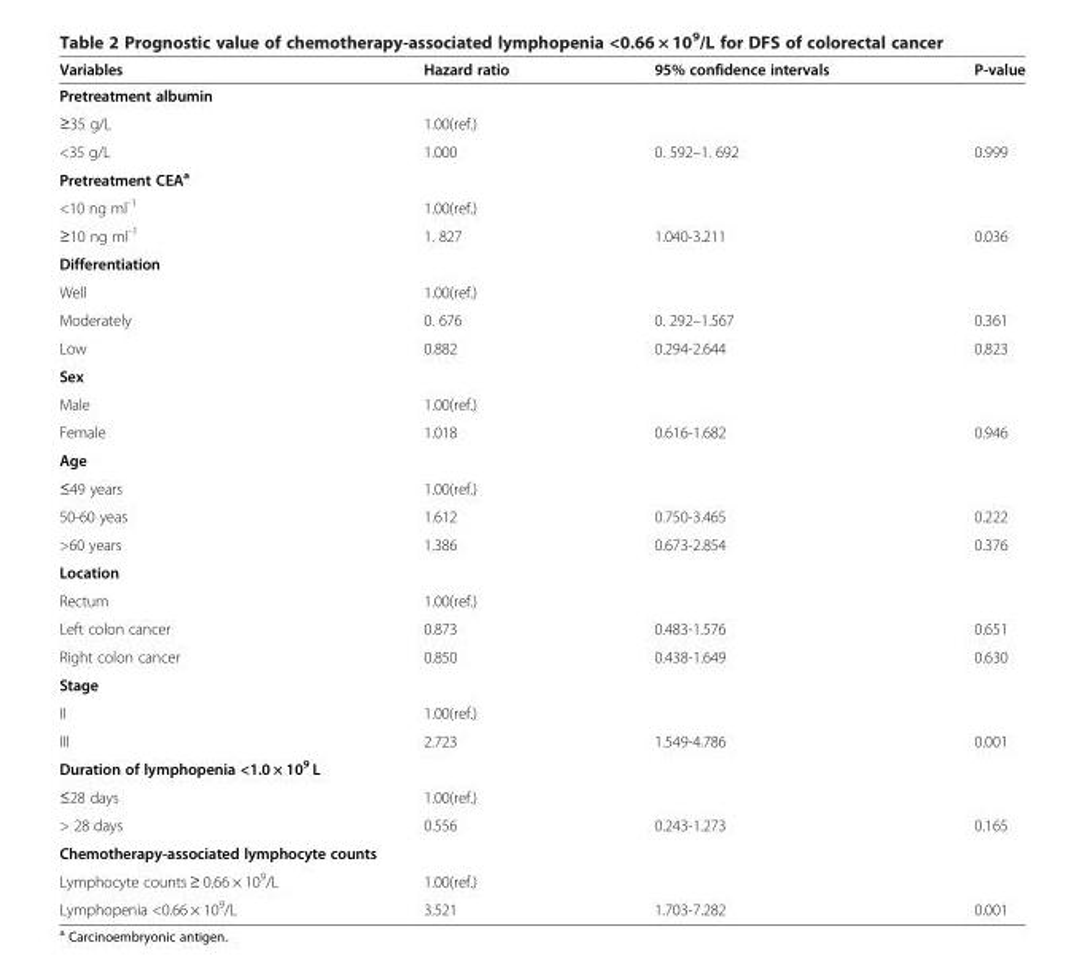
<table><thead><tr><td>Variables</td><td>Hazard ratio</td><td>95% confidence intervals</td><td>P-value</td></tr></thead><tbody><tr><td colspan="4">Pretreatment albumin</td></tr><tr><td>≥35 g/L</td><td>1.00(ref.)</td><td></td><td></td></tr><tr><td>&lt;35 g/L</td><td>1.000</td><td>0. 592–1. 692</td><td>0.999</td></tr><tr><td colspan="4">Pretreatment CEA<sup>a</sup></td></tr><tr><td>&lt;10 ng ml<sup>-1</sup></td><td>1.00(ref.)</td><td></td><td></td></tr><tr><td>≥10 ng ml<sup>-1</sup></td><td>1. 827</td><td>1.040-3.211</td><td>0.036</td></tr><tr><td colspan="4">Differentiation</td></tr><tr><td>Well</td><td>1.00(ref.)</td><td></td><td></td></tr><tr><td>Moderately</td><td>0. 676</td><td>0. 292–1.567</td><td>0.361</td></tr><tr><td>Low</td><td>0.882</td><td>0.294-2.644</td><td>0.823</td></tr><tr><td colspan="4">Sex</td></tr><tr><td>Male</td><td>1.00(ref.)</td><td></td><td></td></tr><tr><td>Female</td><td>1.018</td><td>0.616-1.682</td><td>0.946</td></tr><tr><td colspan="4">Age</td></tr><tr><td>≤49 years</td><td>1.00(ref.)</td><td></td><td></td></tr><tr><td>50-60 yeas</td><td>1.612</td><td>0.750-3.465</td><td>0.222</td></tr><tr><td>&gt;60 years</td><td>1.386</td><td>0.673-2.854</td><td>0.376</td></tr><tr><td colspan="4">Location</td></tr><tr><td>Rectum</td><td>1.00(ref.)</td><td></td><td></td></tr><tr><td>Left colon cancer</td><td>0.873</td><td>0.483-1.576</td><td>0.651</td></tr><tr><td>Right colon cancer</td><td>0.850</td><td>0.438-1.649</td><td>0.630</td></tr><tr><td colspan="4">Stage</td></tr><tr><td>II</td><td>1.00(ref.)</td><td></td><td></td></tr><tr><td>III</td><td>2.723</td><td>1.549-4.786</td><td>0.001</td></tr><tr><td colspan="4">Duration of lymphopenia &lt;1.0 × 10<sup>9</sup> L</td></tr><tr><td>≤28 days</td><td>1.00(ref.)</td><td></td><td></td></tr><tr><td>&gt; 28 days</td><td>0.556</td><td>0.243-1.273</td><td>0.165</td></tr><tr><td colspan="4">Chemotherapy-associated lymphocyte counts</td></tr><tr><td>Lymphocyte counts ≥ 0.66 × 10<sup>9</sup>/L</td><td>1.00(ref.)</td><td></td><td></td></tr><tr><td>Lymphopenia &lt;0.66 × 10<sup>9</sup>/L</td><td>3.521</td><td>1.703-7.282</td><td>0.001</td></tr></tbody></table>